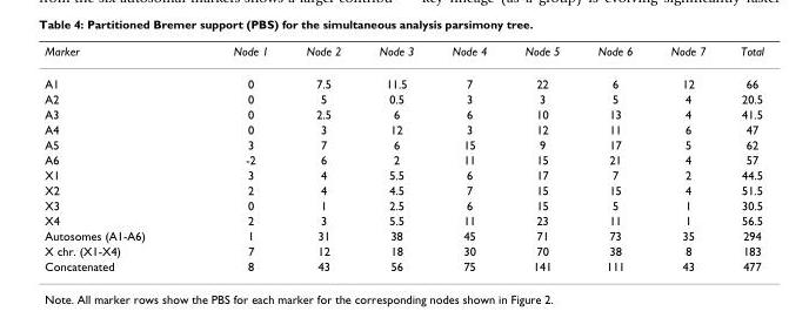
<table><thead><tr><td>Marker</td><td>Node 1</td><td>Node 2</td><td>Node 3</td><td>Node 4</td><td>Node 5</td><td>Node 6</td><td>Node 7</td><td>Total</td></tr></thead><tbody><tr><td>A1</td><td>0</td><td>7.5</td><td>11.5</td><td>7</td><td>22</td><td>6</td><td>12</td><td>66</td></tr><tr><td>A2</td><td>0</td><td>5</td><td>0.5</td><td>3</td><td>3</td><td>5</td><td>4</td><td>20.5</td></tr><tr><td>A3</td><td>0</td><td>2.5</td><td>6</td><td>6</td><td>10</td><td>13</td><td>4</td><td>41.5</td></tr><tr><td>A4</td><td>0</td><td>3</td><td>12</td><td>3</td><td>12</td><td>11</td><td>6</td><td>47</td></tr><tr><td>A5</td><td>3</td><td>7</td><td>6</td><td>15</td><td>9</td><td>17</td><td>5</td><td>62</td></tr><tr><td>A6</td><td>-2</td><td>6</td><td>2</td><td>11</td><td>15</td><td>21</td><td>4</td><td>57</td></tr><tr><td>X1</td><td>3</td><td>4</td><td>5.5</td><td>6</td><td>17</td><td>7</td><td>2</td><td>44.5</td></tr><tr><td>X2</td><td>2</td><td>4</td><td>4.5</td><td>7</td><td>15</td><td>15</td><td>4</td><td>51.5</td></tr><tr><td>X3</td><td>0</td><td>1</td><td>2.5</td><td>6</td><td>15</td><td>5</td><td>1</td><td>30.5</td></tr><tr><td>X4</td><td>2</td><td>3</td><td>5.5</td><td>11</td><td>23</td><td>11</td><td>1</td><td>56.5</td></tr><tr><td>Autosomes (A1-A6)</td><td>1</td><td>31</td><td>38</td><td>45</td><td>71</td><td>73</td><td>35</td><td>294</td></tr><tr><td>X chr. (X1-X4)</td><td>7</td><td>12</td><td>18</td><td>30</td><td>70</td><td>38</td><td>8</td><td>183</td></tr><tr><td>Concatenated</td><td>8</td><td>43</td><td>56</td><td>75</td><td>141</td><td>111</td><td>43</td><td>477</td></tr></tbody></table>